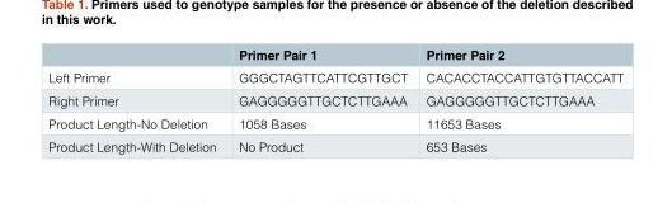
<table><thead><tr><td></td><td>Primer Pair 1</td><td>Primer Pair 2</td></tr></thead><tbody><tr><td>Left Primer</td><td>GGGCTAGTTCATTCGTTGCT</td><td>CACACCTACCATTGTGTTACCATT</td></tr><tr><td>Right Primer</td><td>GAGGGGGTTGCTCTTGAAA</td><td>GAGGGGGTTGCTCTTGAAA</td></tr><tr><td>Product Length-No Deletion</td><td>1058 Bases</td><td>11653 Bases</td></tr><tr><td>Product Length-With Deletion</td><td>No Product</td><td>653 Bases</td></tr></tbody></table>